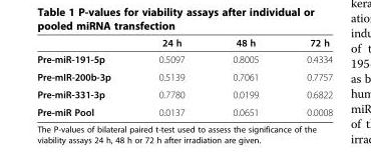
<table><thead><tr><td></td><td>24 h</td><td>48 h</td><td>72 h</td></tr></thead><tbody><tr><td>Pre-miR-191-5p</td><td>0.5097</td><td>0.8005</td><td>0.4334</td></tr><tr><td>Pre-mIR-200b-3p</td><td>0.5139</td><td>0.7061</td><td>0.7757</td></tr><tr><td>Pre-miR-331-3p</td><td>0.7780</td><td>0.0199</td><td>0.6822</td></tr><tr><td>Pre-miR Pool</td><td>0.0137</td><td>0.0651</td><td>0.0008</td></tr></tbody></table>